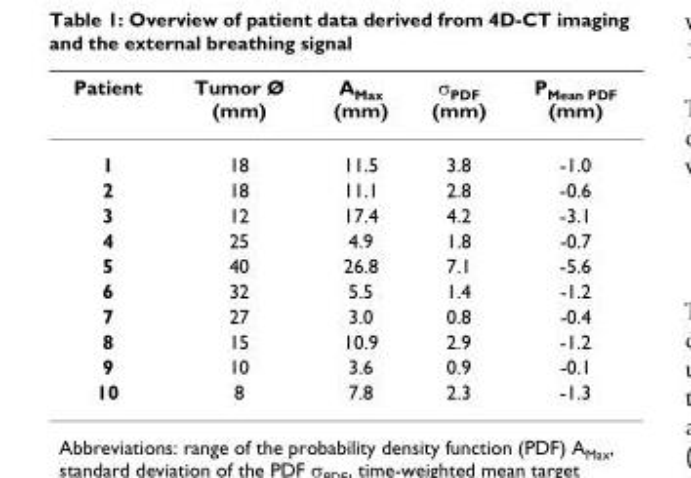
<table><thead><tr><td>Patient</td><td>Tumor Ø (mm)</td><td>A<sub>Max</sub> (mm)</td><td>σ<sub>PDF</sub> (mm)</td><td>P<sub>Mean PDF</sub> (mm)</td></tr></thead><tbody><tr><td>1</td><td>18</td><td>11.5</td><td>3.8</td><td>-1.0</td></tr><tr><td>2</td><td>18</td><td>11.1</td><td>2.8</td><td>-0.6</td></tr><tr><td>3</td><td>12</td><td>17.4</td><td>4.2</td><td>-3.1</td></tr><tr><td>4</td><td>25</td><td>4.9</td><td>1.8</td><td>-0.7</td></tr><tr><td>5</td><td>40</td><td>26.8</td><td>7.1</td><td>-5.6</td></tr><tr><td>6</td><td>32</td><td>5.5</td><td>1.4</td><td>-1.2</td></tr><tr><td>7</td><td>27</td><td>3.0</td><td>0.8</td><td>-0.4</td></tr><tr><td>8</td><td>15</td><td>10.9</td><td>2.9</td><td>-1.2</td></tr><tr><td>9</td><td>10</td><td>3.6</td><td>0.9</td><td>-0.1</td></tr><tr><td>10</td><td>8</td><td>7.8</td><td>2.3</td><td>-1.3</td></tr></tbody></table>